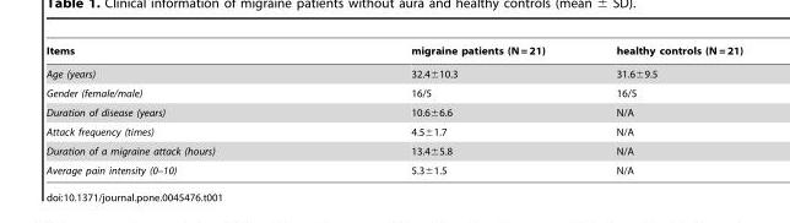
<table><thead><tr><td>Items</td><td>migraine patients (N = 21)</td><td>healthy controls (N = 21)</td></tr></thead><tbody><tr><td>Age (years)</td><td>32.4±10.3</td><td>31.6±9.5</td></tr><tr><td>Gender (female/male)</td><td>16/5</td><td>16/5</td></tr><tr><td>Duration of disease (years)</td><td>10.6±6.6</td><td>N/A</td></tr><tr><td>Attack frequency (times)</td><td>4.5±1.7</td><td>N/A</td></tr><tr><td>Duration of a migraine attack (hours)</td><td>13.4±5.8</td><td>N/A</td></tr><tr><td>Average pain intensity (0–10)</td><td>5.3±1.5</td><td>N/A</td></tr></tbody></table>